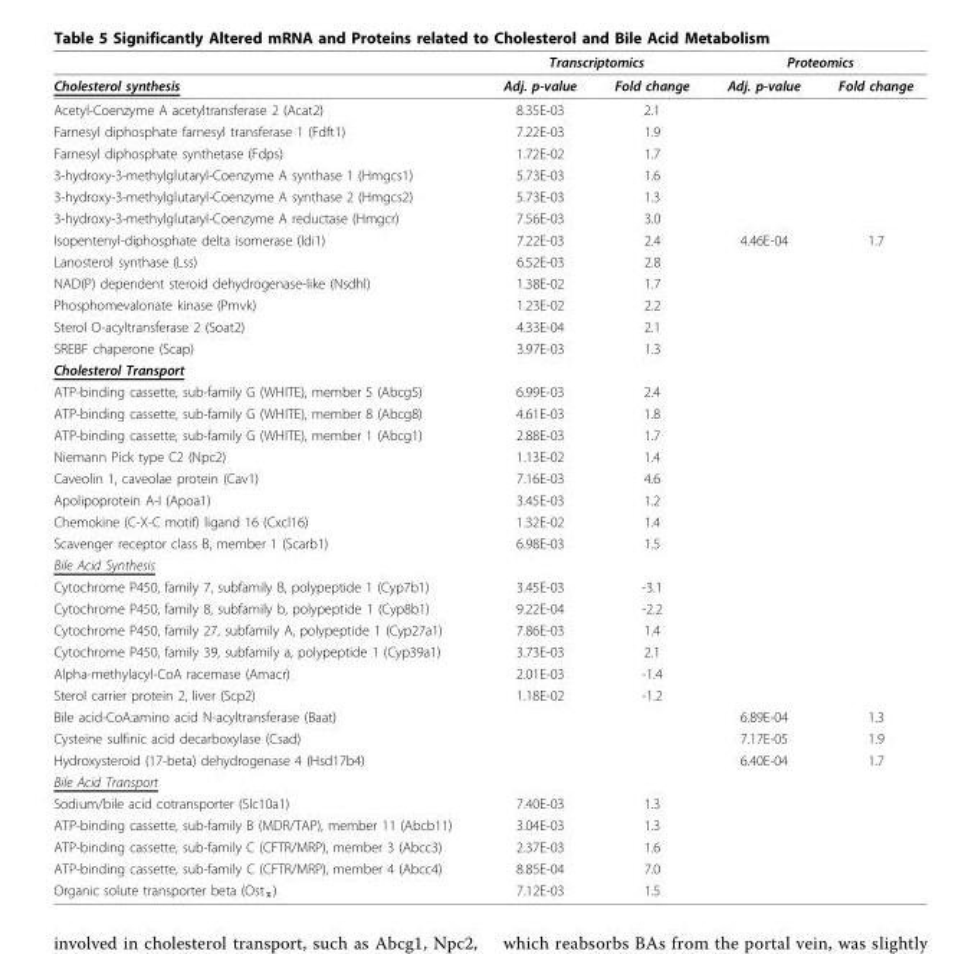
<table><thead><tr><td rowspan="2">Cholesterol synthesis</td><td colspan="2">Transcriptomics</td><td colspan="2">Proteomics</td></tr><tr><td>Adj. p-value</td><td>Fold change</td><td>Adj. p-value</td><td>Fold change</td></tr></thead><tbody><tr><td>Acetyl-Coenzyme A acetyltransferase 2 (Acat2)</td><td>8.35E-03</td><td>2.1</td><td></td><td></td></tr><tr><td>Farnesyl diphosphate farnesyl transferase 1 (Fdft1)</td><td>7.22E-03</td><td>1.9</td><td></td><td></td></tr><tr><td>Farnesyl diphosphate synthetase (Fdps)</td><td>1.72E-02</td><td>1.7</td><td></td><td></td></tr><tr><td>3-hydroxy-3-methylglutaryl-Coenzyme A synthase 1 (Hmgcs1)</td><td>5.73E-03</td><td>1.6</td><td></td><td></td></tr><tr><td>3-hydroxy-3-methylglutaryl-Coenzyme A synthase 2 (Hmgcs2)</td><td>5.73E-03</td><td>1.3</td><td></td><td></td></tr><tr><td>3-hydroxy-3-methylglutaryl-Coenzyme A reductase (Hmgcr)</td><td>7.56E-03</td><td>3.0</td><td></td><td></td></tr><tr><td>Isopentenyl-diphosphate delta isomerase (Idi1)</td><td>7.22E-03</td><td>2.4</td><td>4.46E-04</td><td>1.7</td></tr><tr><td>Lanosterol synthase (Lss)</td><td>6.52E-03</td><td>2.8</td><td></td><td></td></tr><tr><td>NAD(P) dependent steroid dehydrogenase-like (Nsdhl)</td><td>1.38E-02</td><td>1.7</td><td></td><td></td></tr><tr><td>Phosphomevalonate kinase (Pmvk)</td><td>1.23E-02</td><td>2.2</td><td></td><td></td></tr><tr><td>Sterol O-acyltransferase 2 (Soat2)</td><td>4.33E-04</td><td>2.1</td><td></td><td></td></tr><tr><td>SREBF chaperone (Scap)</td><td>3.97E-03</td><td>1.3</td><td></td><td></td></tr><tr><td colspan="5">Cholesterol Transport</td></tr><tr><td>ATP-binding cassette, sub-family G (WHITE), member 5 (Abcg5)</td><td>6.99E-03</td><td>2.4</td><td></td><td></td></tr><tr><td>ATP-binding cassette, sub-family G (WHITE), member 8 (Abcg8)</td><td>4.61E-03</td><td>1.8</td><td></td><td></td></tr><tr><td>ATP-binding cassette, sub-family G (WHITE), member 1 (Abcg1)</td><td>2.88E-03</td><td>1.7</td><td></td><td></td></tr><tr><td>Niemann Pick type C2 (Npc2)</td><td>1.13E-02</td><td>1.4</td><td></td><td></td></tr><tr><td>Caveolin 1, caveolae protein (Cav1)</td><td>7.16E-03</td><td>4.6</td><td></td><td></td></tr><tr><td>Apolipoprotein A-I (Apoa1)</td><td>3.45E-03</td><td>1.2</td><td></td><td></td></tr><tr><td>Chemokine (C-X-C motif) ligand 16 (Cxcl16)</td><td>1.32E-02</td><td>1.4</td><td></td><td></td></tr><tr><td>Scavenger receptor class B, member 1 (Scarb1)</td><td>6.98E-03</td><td>1.5</td><td></td><td></td></tr><tr><td colspan="5">Bile Acid Synthesis</td></tr><tr><td>Cytochrome P450, family 7, subfamily B, polypeptide 1 (Cyp7b1)</td><td>3.45E-03</td><td>-3.1</td><td></td><td></td></tr><tr><td>Cytochrome P450, family 8, subfamily b, polypeptide 1 (Cyp8b1)</td><td>9.22E-04</td><td>-2.2</td><td></td><td></td></tr><tr><td>Cytochrome P450, family 27, subfamily A, polypeptide 1 (Cyp27a1)</td><td>7.86E-03</td><td>1.4</td><td></td><td></td></tr><tr><td>Cytochrome P450, family 39, subfamily a, polypeptide 1 (Cyp39a1)</td><td>3.73E-03</td><td>2.1</td><td></td><td></td></tr><tr><td>Alpha-methylacyl-CoA racemase (Amacr)</td><td>2.01E-03</td><td>-1.4</td><td></td><td></td></tr><tr><td>Sterol carrier protein 2, liver (Scp2)</td><td>1.18E-02</td><td>-1.2</td><td></td><td></td></tr><tr><td>Bile acid-CoA:amino acid N-acyltransferase (Baat)</td><td></td><td></td><td>6.89E-04</td><td>1.3</td></tr><tr><td>Cysteine sulfinic acid decarboxylase (Csad)</td><td></td><td></td><td>7.17E-05</td><td>1.9</td></tr><tr><td>Hydroxysteroid (17-beta) dehydrogenase 4 (Hsd17b4)</td><td></td><td></td><td>6.40E-04</td><td>1.7</td></tr><tr><td colspan="5">Bile Acid Transport</td></tr><tr><td>Sodium/bile acid cotransporter (Slc10a1)</td><td>7.40E-03</td><td>1.3</td><td></td><td></td></tr><tr><td>ATP-binding cassette, sub-family B (MDR/TAP), member 11 (Abcb11)</td><td>3.04E-03</td><td>1.3</td><td></td><td></td></tr><tr><td>ATP-binding cassette, sub-family C (CFTR/MRP), member 3 (Abcc3)</td><td>2.37E-03</td><td>1.6</td><td></td><td></td></tr><tr><td>ATP-binding cassette, sub-family C (CFTR/MRP), member 4 (Abcc4)</td><td>8.85E-04</td><td>7.0</td><td></td><td></td></tr><tr><td>Organic solute transporter beta (Ostྞ)</td><td>7.12E-03</td><td>1.5</td><td></td><td></td></tr></tbody></table>